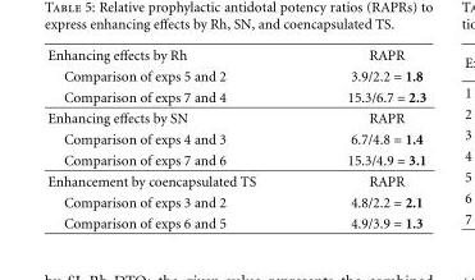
<table><tbody><tr><td>Enhancing effects by Rh</td><td>RAPR</td></tr><tr><td>Comparison of exps 5 and 2</td><td>3.9/2.2 = 1.8</td></tr><tr><td>Comparison of exps 7 and 4</td><td>15.3/6.7 = 2.3</td></tr><tr><td>Enhancing effects by SN</td><td>RAPR</td></tr><tr><td>Comparison of exps 4 and 3</td><td>6.7/4.8 = 1.4</td></tr><tr><td>Comparison of exps 7 and 6</td><td>15.3/4.9 = 3.1</td></tr><tr><td>Enhancement by coencapsulated TS</td><td>RAPR</td></tr><tr><td>Comparison of exps 3 and 2</td><td>4.8/2.2 = 2.1</td></tr><tr><td>Comparison of exps 6 and 5</td><td>4.9/3.9 = 1.3</td></tr></tbody></table>